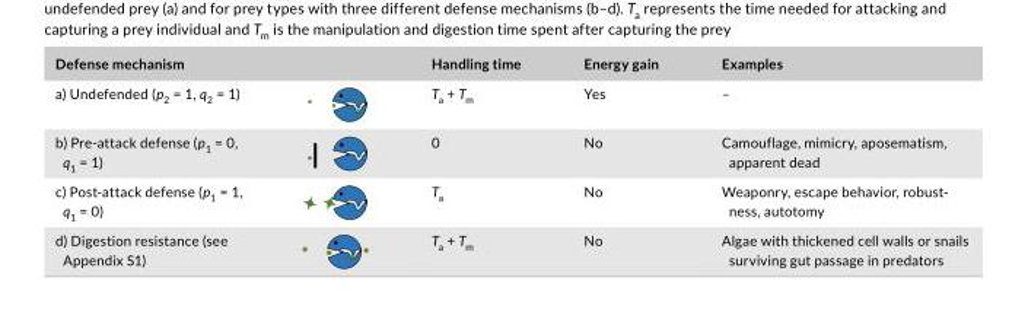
<table><thead><tr><td>Defense mechanism</td><td>Handling time</td><td>Energy gain</td><td>Examples</td></tr></thead><tbody><tr><td>a) Undefended (p<sub>2</sub> = 1, q<sub>2</sub> = 1)</td><td>T<sub>a</sub> + T<sub>m</sub></td><td>Yes</td><td>–</td></tr><tr><td>b) Pre- attack defense (p<sub>1</sub> = 0, q<sub>1</sub> = 1)</td><td>0</td><td>No</td><td>Camouflage, mimicry, aposematism, apparent dead</td></tr><tr><td>c) Post-attack defense (p<sub>1</sub> = 1, q<sub>1</sub> = 0)</td><td>T<sub>a</sub></td><td>No</td><td>Weaponry, escape behavior, robust- ness, autotomy</td></tr><tr><td>d) Digestion resistance (see Appendix S1)</td><td>T<sub>a</sub> + T<sub>m</sub></td><td>No</td><td>Algae with thickened cell walls or snails surviving gut passage in predators</td></tr></tbody></table>